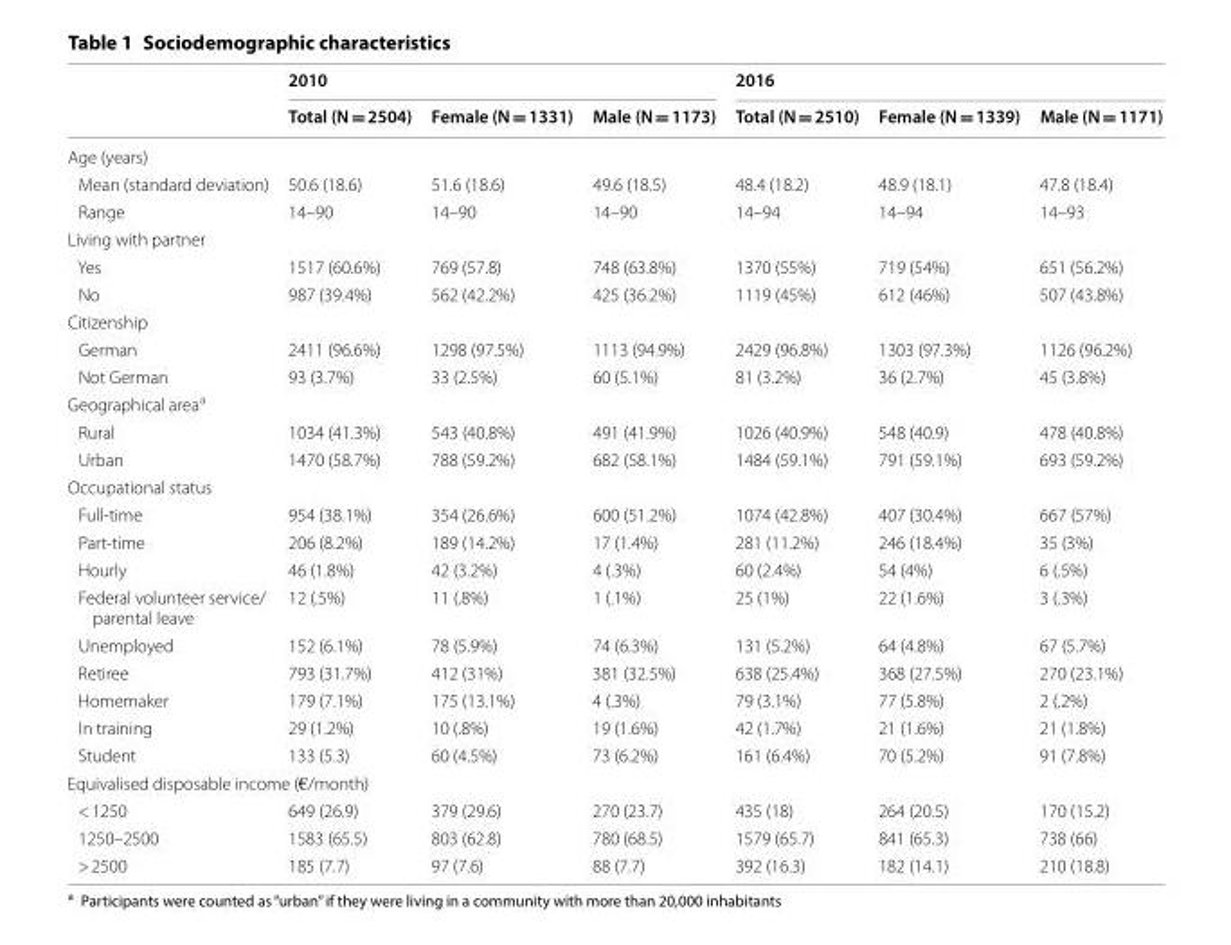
<table><thead><tr><td rowspan="2"></td><td colspan="3">2010</td><td colspan="3">2016</td></tr><tr><td>Total (N = 2504)</td><td>Female (N = 1331)</td><td>Male (N = 1173)</td><td>Total (N = 2510)</td><td>Female (N = 1339)</td><td>Male (N = 1171)</td></tr></thead><tbody><tr><td colspan="7">Age (years)</td></tr><tr><td>Mean (standard deviation)</td><td>50.6 (18.6)</td><td>51.6 (18.6)</td><td>49.6 (18.5)</td><td>48.4 (18.2)</td><td>48.9 (18.1)</td><td>47.8 (18.4)</td></tr><tr><td>Range</td><td>14–90</td><td>14–90</td><td>14–90</td><td>14–94</td><td>14–94</td><td>14–93</td></tr><tr><td colspan="7">Living with partner</td></tr><tr><td>Yes</td><td>1517 (60.6%)</td><td>769 (57.8)</td><td>748 (63.8%)</td><td>1370 (55%)</td><td>719 (54%)</td><td>651 (56.2%)</td></tr><tr><td>No</td><td>987 (39.4%)</td><td>562 (42.2%)</td><td>425 (36.2%)</td><td>1119 (45%)</td><td>612 (46%)</td><td>507 (43.8%)</td></tr><tr><td colspan="7">Citizenship</td></tr><tr><td>German</td><td>2411 (96.6%)</td><td>1298 (97.5%)</td><td>1113 (94.9%)</td><td>2429 (96.8%)</td><td>1303 (97.3%)</td><td>1126 (96.2%)</td></tr><tr><td>Not German</td><td>93 (3.7%)</td><td>33 (2.5%)</td><td>60 (5.1%)</td><td>81 (3.2%)</td><td>36 (2.7%)</td><td>45 (3.8%)</td></tr><tr><td colspan="7">Geographical area<sup>a</sup></td></tr><tr><td>Rural</td><td>1034 (41.3%)</td><td>543 (40.8%)</td><td>491 (41.9%)</td><td>1026 (40.9%)</td><td>548 (40.9)</td><td>478 (40.8%)</td></tr><tr><td>Urban</td><td>1470 (58.7%)</td><td>788 (59.2%)</td><td>682 (58.1%)</td><td>1484 (59.1%)</td><td>791 (59.1%)</td><td>693 (59.2%)</td></tr><tr><td colspan="7">Occupational status</td></tr><tr><td>Full-time</td><td>954 (38.1%)</td><td>354 (26.6%)</td><td>600 (51.2%)</td><td>1074 (42.8%)</td><td>407 (30.4%)</td><td>667 (57%)</td></tr><tr><td>Part-time</td><td>206 (8.2%)</td><td>189 (14.2%)</td><td>17 (1.4%)</td><td>281 (11.2%)</td><td>246 (18.4%)</td><td>35 (3%)</td></tr><tr><td>Hourly</td><td>46 (1.8%)</td><td>42 (3.2%)</td><td>4 (.3%)</td><td>60 (2.4%)</td><td>54 (4%)</td><td>6 (.5%)</td></tr><tr><td>Federal volunteer service/ parental leave</td><td>12 (.5%)</td><td>11 (.8%)</td><td>1 (.1%)</td><td>25 (1%)</td><td>22 (1.6%)</td><td>3 (.3%)</td></tr><tr><td>Unemployed</td><td>152 (6.1%)</td><td>78 (5.9%)</td><td>74 (6.3%)</td><td>131 (5.2%)</td><td>64 (4.8%)</td><td>67 (5.7%)</td></tr><tr><td>Retiree</td><td>793 (31.7%)</td><td>412 (31%)</td><td>381 (32.5%)</td><td>638 (25.4%)</td><td>368 (27.5%)</td><td>270 (23.1%)</td></tr><tr><td>Homemaker</td><td>179 (7.1%)</td><td>175 (13.1%)</td><td>4 (.3%)</td><td>79 (3.1%)</td><td>77 (5.8%)</td><td>2 (.2%)</td></tr><tr><td>In training</td><td>29 (1.2%)</td><td>10 (.8%)</td><td>19 (1.6%)</td><td>42 (1.7%)</td><td>21 (1.6%)</td><td>21 (1.8%)</td></tr><tr><td>Student</td><td>133 (5.3)</td><td>60 (4.5%)</td><td>73 (6.2%)</td><td>161 (6.4%)</td><td>70 (5.2%)</td><td>91 (7.8%)</td></tr><tr><td colspan="7">Equivalised disposable income (€/month)</td></tr><tr><td>&lt; 1250</td><td>649 (26.9)</td><td>379 (29.6)</td><td>270 (23.7)</td><td>435 (18)</td><td>264 (20.5)</td><td>170 (15.2)</td></tr><tr><td>1250–2500</td><td>1583 (65.5)</td><td>803 (62.8)</td><td>780 (68.5)</td><td>1579 (65.7)</td><td>841 (65.3)</td><td>738 (66)</td></tr><tr><td>&gt; 2500</td><td>185 (7.7)</td><td>97 (7.6)</td><td>88 (7.7)</td><td>392 (16.3)</td><td>182 (14.1)</td><td>210 (18.8)</td></tr></tbody></table>